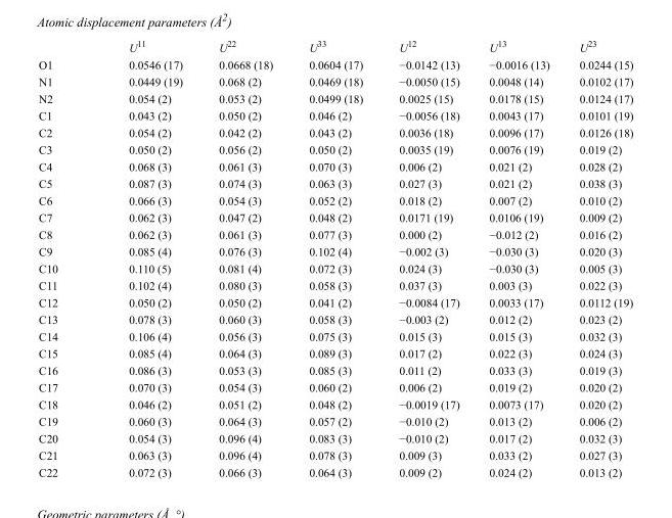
<table><thead><tr><td></td><td>U<sup>11</sup></td><td>U<sup>22</sup></td><td>U<sup>33</sup></td><td>U<sup>12</sup></td><td>U<sup>13</sup></td><td>U<sup>23</sup></td></tr></thead><tbody><tr><td>O1</td><td>0.0546 (17)</td><td>0.0668 (18)</td><td>0.0604 (17)</td><td>−0.0142 (13)</td><td>−0.0016 (13)</td><td>0.0244 (15)</td></tr><tr><td>N1</td><td>0.0449 (19)</td><td>0.068 (2)</td><td>0.0469 (18)</td><td>−0.0050 (15)</td><td>0.0048 (14)</td><td>0.0102 (17)</td></tr><tr><td>N2</td><td>0.054 (2)</td><td>0.053 (2)</td><td>0.0499 (18)</td><td>0.0025 (15)</td><td>0.0178 (15)</td><td>0.0124 (17)</td></tr><tr><td>C1</td><td>0.043 (2)</td><td>0.050 (2)</td><td>0.046 (2)</td><td>−0.0056 (18)</td><td>0.0043 (17)</td><td>0.0101 (19)</td></tr><tr><td>C2</td><td>0.054 (2)</td><td>0.042 (2)</td><td>0.043 (2)</td><td>0.0036 (18)</td><td>0.0096 (17)</td><td>0.0126 (18)</td></tr><tr><td>C3</td><td>0.050 (2)</td><td>0.056 (2)</td><td>0.050 (2)</td><td>0.0035 (19)</td><td>0.0076 (19)</td><td>0.019 (2)</td></tr><tr><td>C4</td><td>0.068 (3)</td><td>0.061 (3)</td><td>0.070 (3)</td><td>0.006 (2)</td><td>0.021 (2)</td><td>0.028 (2)</td></tr><tr><td>C5</td><td>0.087 (3)</td><td>0.074 (3)</td><td>0.063 (3)</td><td>0.027 (3)</td><td>0.021 (2)</td><td>0.038 (3)</td></tr><tr><td>C6</td><td>0.066 (3)</td><td>0.054 (3)</td><td>0.052 (2)</td><td>0.018 (2)</td><td>0.007 (2)</td><td>0.010 (2)</td></tr><tr><td>C7</td><td>0.062 (3)</td><td>0.047 (2)</td><td>0.048 (2)</td><td>0.0171 (19)</td><td>0.0106 (19)</td><td>0.009 (2)</td></tr><tr><td>C8</td><td>0.062 (3)</td><td>0.061 (3)</td><td>0.077 (3)</td><td>0.000 (2)</td><td>−0.012 (2)</td><td>0.016 (2)</td></tr><tr><td>C9</td><td>0.085 (4)</td><td>0.076 (3)</td><td>0.102 (4)</td><td>−0.002 (3)</td><td>−0.030 (3)</td><td>0.020 (3)</td></tr><tr><td>C10</td><td>0.110 (5)</td><td>0.081 (4)</td><td>0.072 (3)</td><td>0.024 (3)</td><td>−0.030 (3)</td><td>0.005 (3)</td></tr><tr><td>C11</td><td>0.102 (4)</td><td>0.080 (3)</td><td>0.058 (3)</td><td>0.037 (3)</td><td>0.003 (3)</td><td>0.022 (3)</td></tr><tr><td>C12</td><td>0.050 (2)</td><td>0.050 (2)</td><td>0.041 (2)</td><td>−0.0084 (17)</td><td>0.0033 (17)</td><td>0.0112 (19)</td></tr><tr><td>C13</td><td>0.078 (3)</td><td>0.060 (3)</td><td>0.058 (3)</td><td>−0.003 (2)</td><td>0.012 (2)</td><td>0.023 (2)</td></tr><tr><td>C14</td><td>0.106 (4)</td><td>0.056 (3)</td><td>0.075 (3)</td><td>0.015 (3)</td><td>0.015 (3)</td><td>0.032 (3)</td></tr><tr><td>C15</td><td>0.085 (4)</td><td>0.064 (3)</td><td>0.089 (3)</td><td>0.017 (2)</td><td>0.022 (3)</td><td>0.024 (3)</td></tr><tr><td>C16</td><td>0.086 (3)</td><td>0.053 (3)</td><td>0.085 (3)</td><td>0.011 (2)</td><td>0.033 (3)</td><td>0.019 (3)</td></tr><tr><td>C17</td><td>0.070 (3)</td><td>0.054 (3)</td><td>0.060 (2)</td><td>0.006 (2)</td><td>0.019 (2)</td><td>0.020 (2)</td></tr><tr><td>C18</td><td>0.046 (2)</td><td>0.051 (2)</td><td>0.048 (2)</td><td>−0.0019 (17)</td><td>0.0073 (17)</td><td>0.020 (2)</td></tr><tr><td>C19</td><td>0.060 (3)</td><td>0.064 (3)</td><td>0.057 (2)</td><td>−0.010 (2)</td><td>0.013 (2)</td><td>0.006 (2)</td></tr><tr><td>C20</td><td>0.054 (3)</td><td>0.096 (4)</td><td>0.083 (3)</td><td>−0.010 (2)</td><td>0.017 (2)</td><td>0.032 (3)</td></tr><tr><td>C21</td><td>0.063 (3)</td><td>0.096 (4)</td><td>0.078 (3)</td><td>0.009 (3)</td><td>0.033 (2)</td><td>0.027 (3)</td></tr><tr><td>C22</td><td>0.072 (3)</td><td>0.066 (3)</td><td>0.064 (3)</td><td>0.009 (2)</td><td>0.024 (2)</td><td>0.013 (2)</td></tr></tbody></table>